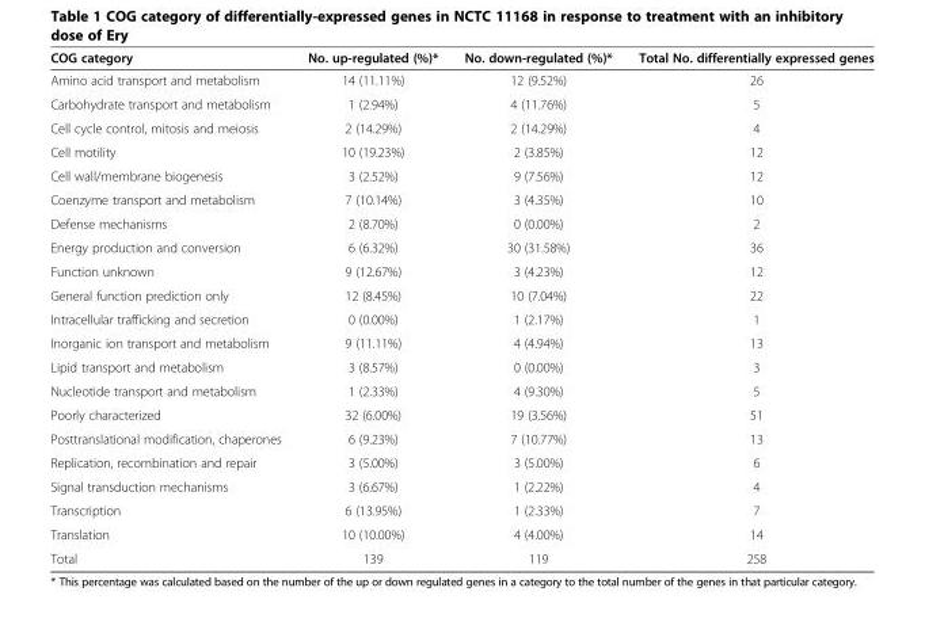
<table><thead><tr><td>COG category</td><td>No. up-regulated (%)*</td><td>No. down-regulated (%)*</td><td>Total No. differentially expressed genes</td></tr></thead><tbody><tr><td>Amino acid transport and metabolism</td><td>14 (11.11%)</td><td>12 (9.52%)</td><td>26</td></tr><tr><td>Carbohydrate transport and metabolism</td><td>1 (2.94%)</td><td>4 (11.76%)</td><td>5</td></tr><tr><td>Cell cycle control, mitosis and meiosis</td><td>2 (14.29%)</td><td>2 (14.29%)</td><td>4</td></tr><tr><td>Cell motility</td><td>10 (19.23%)</td><td>2 (3.85%)</td><td>12</td></tr><tr><td>Cell wall/membrane biogenesis</td><td>3 (2.52%)</td><td>9 (7.56%)</td><td>12</td></tr><tr><td>Coenzyme transport and metabolism</td><td>7 (10.14%)</td><td>3 (4.35%)</td><td>10</td></tr><tr><td>Defense mechanisms</td><td>2 (8.70%)</td><td>0 (0.00%)</td><td>2</td></tr><tr><td>Energy production and conversion</td><td>6 (6.32%)</td><td>30 (31.58%)</td><td>36</td></tr><tr><td>Function unknown</td><td>9 (12.67%)</td><td>3 (4.23%)</td><td>12</td></tr><tr><td>General function prediction only</td><td>12 (8.45%)</td><td>10 (7.04%)</td><td>22</td></tr><tr><td>Intracellular trafficking and secretion</td><td>0 (0.00%)</td><td>1 (2.17%)</td><td>1</td></tr><tr><td>Inorganic ion transport and metabolism</td><td>9 (11.11%)</td><td>4 (4.94%)</td><td>13</td></tr><tr><td>Lipid transport and metabolism</td><td>3 (8.57%)</td><td>0 (0.00%)</td><td>3</td></tr><tr><td>Nucleotide transport and metabolism</td><td>1 (2.33%)</td><td>4 (9.30%)</td><td>5</td></tr><tr><td>Poorly characterized</td><td>32 (6.00%)</td><td>19 (3.56%)</td><td>51</td></tr><tr><td>Posttranslational modification, chaperones</td><td>6 (9.23%)</td><td>7 (10.77%)</td><td>13</td></tr><tr><td>Replication, recombination and repair</td><td>3 (5.00%)</td><td>3 (5.00%)</td><td>6</td></tr><tr><td>Signal transduction mechanisms</td><td>3 (6.67%)</td><td>1 (2.22%)</td><td>4</td></tr><tr><td>Transcription</td><td>6 (13.95%)</td><td>1 (2.33%)</td><td>7</td></tr><tr><td>Translation</td><td>10 (10.00%)</td><td>4 (4.00%)</td><td>14</td></tr><tr><td>Total</td><td>139</td><td>119</td><td>258</td></tr></tbody></table>